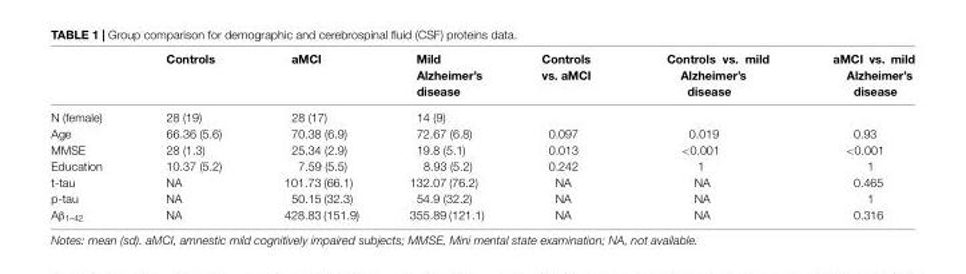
<table><thead><tr><td></td><td>Controls</td><td>aMCI</td><td>Mild Alzheimer’s disease</td><td>Controls vs. aMCI</td><td>Controls vs. mild Alzheimer’s disease</td><td>aMCI vs. mild Alzheimer’s disease</td></tr></thead><tbody><tr><td>N (female)</td><td>28 (19)</td><td>28 (17)</td><td>14 (9)</td><td></td><td></td><td></td></tr><tr><td>Age</td><td>66.36 (5.6)</td><td>70.38 (6.9)</td><td>72.67 (6.8)</td><td>0.097</td><td>0.019</td><td>0.93</td></tr><tr><td>MMSE</td><td>28 (1.3)</td><td>25.34 (2.9)</td><td>19.8 (5.1)</td><td>0.013</td><td>&lt;0.001</td><td>&lt;0.001</td></tr><tr><td>Education</td><td>10.37 (5.2)</td><td>7.59 (5.5)</td><td>8.93 (5.2)</td><td>0.242</td><td>1</td><td>1</td></tr><tr><td>t-tau</td><td>NA</td><td>101.73 (66.1)</td><td>132.07 (76.2)</td><td>NA</td><td>NA</td><td>0.465</td></tr><tr><td>p-tau</td><td>NA</td><td>50.15 (32.3)</td><td>54.9 (32.2)</td><td>NA</td><td>NA</td><td>1</td></tr><tr><td>Aβ<sub>1–42</sub></td><td>NA</td><td>428.83 (151.9)</td><td>355.89 (121.1)</td><td>NA</td><td>NA</td><td>0.316</td></tr></tbody></table>